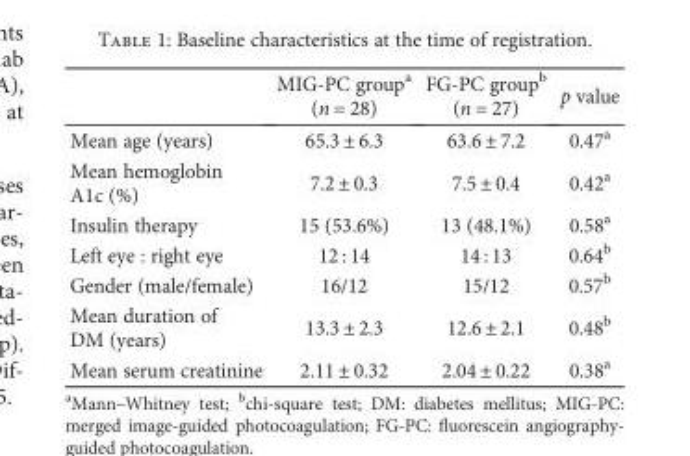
<table><thead><tr><td></td><td>MIG-PC group<sup>a</sup> (n = 28)</td><td>FG-PC group<sup>b</sup> (n = 27)</td><td>p value</td></tr></thead><tbody><tr><td>Mean age (years)</td><td>65.3 ± 6.3</td><td>63.6 ± 7.2</td><td>0.47<sup>a</sup></td></tr><tr><td>Mean hemoglobin A1c (%)</td><td>7.2 ± 0.3</td><td>7.5 ± 0.4</td><td>0.42<sup>a</sup></td></tr><tr><td>Insulin therapy</td><td>15 (53.6%)</td><td>13 (48.1%)</td><td>0.58<sup>a</sup></td></tr><tr><td>Left eye : right eye</td><td>12 : 14</td><td>14 : 13</td><td>0.64<sup>b</sup></td></tr><tr><td>Gender (male/female)</td><td>16/12</td><td>15/12</td><td>0.57<sup>b</sup></td></tr><tr><td>Mean duration of DM (years)</td><td>13.3 ± 2.3</td><td>12.6 ± 2.1</td><td>0.48<sup>b</sup></td></tr><tr><td>Mean serum creatinine</td><td>2.11 ± 0.32</td><td>2.04 ± 0.22</td><td>0.38<sup>a</sup></td></tr></tbody></table>